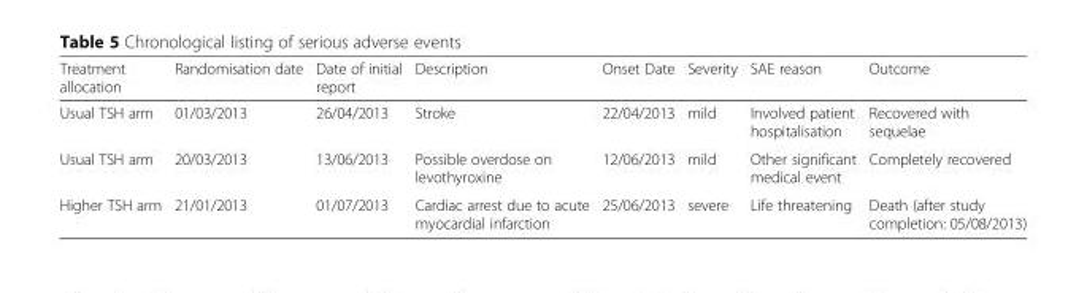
<table><thead><tr><td>Treatment allocation</td><td>Randomisation date</td><td>Date of initial report</td><td>Description</td><td>Onset Date</td><td>Severity</td><td>SAE reason</td><td>Outcome</td></tr></thead><tbody><tr><td>Usual TSH arm</td><td>01/03/2013</td><td>26/04/2013</td><td>Stroke</td><td>22/04/2013</td><td>mild</td><td>Involved patient hospitalisation</td><td>Recovered with sequelae</td></tr><tr><td>Usual TSH arm</td><td>20/03/2013</td><td>13/06/2013</td><td>Possible overdose on levothyroxine</td><td>12/06/2013</td><td>mild</td><td>Other significant medical event</td><td>Completely recovered</td></tr><tr><td>Higher TSH arm</td><td>21/01/2013</td><td>01/07/2013</td><td>Cardiac arrest due to acute myocardial infarction</td><td>25/06/2013</td><td>severe</td><td>Life threatening</td><td>Death (after study completion: 05/08/2013)</td></tr></tbody></table>